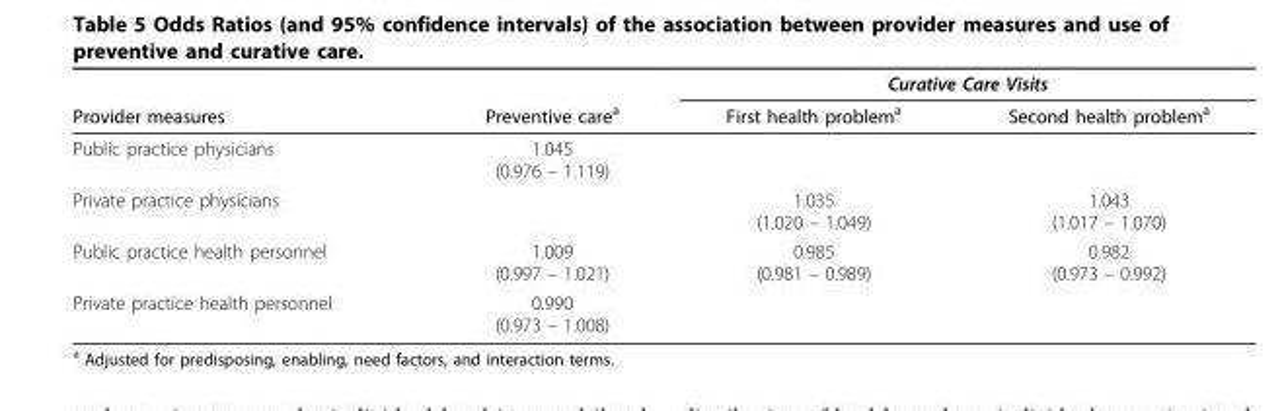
<table><thead><tr><td rowspan="2">Provider measures</td><td rowspan="2">Preventive care<sup>a</sup></td><td colspan="2">Curative Care Visits</td></tr><tr><td>First health problem<sup>a</sup></td><td>Second health problem<sup>a</sup></td></tr></thead><tbody><tr><td>Public practice physicians</td><td>1.045 (0.976 – 1.119)</td><td></td><td></td></tr><tr><td>Private practice physicians</td><td></td><td>1.035 (1.020 – 1.049)</td><td>1.043 (1.017 – 1.070)</td></tr><tr><td>Public practice health personnel</td><td>1.009 (0.997 – 1.021)</td><td>0.985 (0.981 – 0.989)</td><td>0.982 (0.973 – 0.992)</td></tr><tr><td>Private practice health personnel</td><td>0.990 (0.973 – 1.008)</td><td></td><td></td></tr></tbody></table>